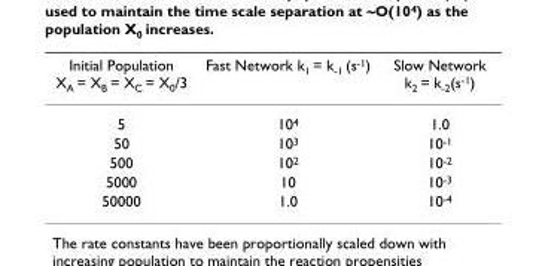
<table><thead><tr><td>Initial Population X<sub>A</sub> = X<sub>B</sub> = X<sub>C</sub> = X<sub>0</sub>/3</td><td>Fast Network k<sub>1</sub> = k<sub>-1</sub> (s<sup>-1</sup>)</td><td>Slow Network k<sub>2</sub> = k<sub>-2</sub>(s<sup>-1</sup>)</td></tr></thead><tbody><tr><td>5</td><td>10<sup>4</sup></td><td>1.0</td></tr><tr><td>50</td><td>10<sup>3</sup></td><td>10<sup>-1</sup></td></tr><tr><td>500</td><td>10<sup>2</sup></td><td>10<sup>-2</sup></td></tr><tr><td>5000</td><td>10</td><td>10<sup>-3</sup></td></tr><tr><td>50000</td><td>1.0</td><td>10<sup>-4</sup></td></tr></tbody></table>